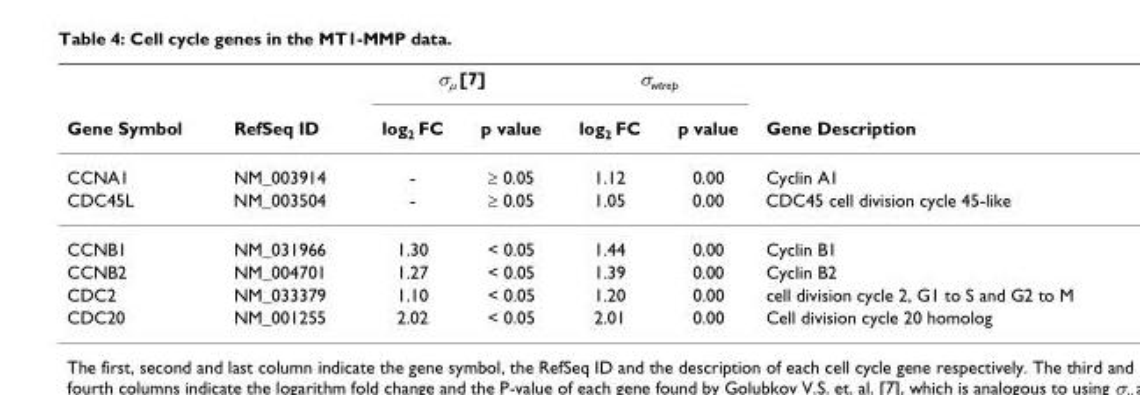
<table><thead><tr><td rowspan="2">Gene Symbol</td><td rowspan="2">RefSeq ID</td><td colspan="2">σ<sub>μ</sub> [7]</td><td colspan="2">σ<sub>wtrep</sub></td><td rowspan="2">Gene Description</td></tr><tr><td>log<sub>2</sub> FC</td><td>p value</td><td>log<sub>2</sub> FC</td><td>p value</td></tr></thead><tbody><tr><td>CCNA1</td><td>NM_003914</td><td>-</td><td>≥ 0.05</td><td>1.12</td><td>0.00</td><td>Cyclin A1</td></tr><tr><td>CDC45L</td><td>NM_003504</td><td>-</td><td>≥ 0.05</td><td>1.05</td><td>0.00</td><td>CDC45 cell division cycle 45-like</td></tr><tr><td>CCNB1</td><td>NM_031966</td><td>1.30</td><td>&lt; 0.05</td><td>1.44</td><td>0.00</td><td>Cyclin B1</td></tr><tr><td>CCNB2</td><td>NM_004701</td><td>1.27</td><td>&lt; 0.05</td><td>1.39</td><td>0.00</td><td>Cyclin B2</td></tr><tr><td>CDC2</td><td>NM_033379</td><td>1.10</td><td>&lt; 0.05</td><td>1.20</td><td>0.00</td><td>cell division cycle 2, G1 to S and G2 to M</td></tr><tr><td>CDC20</td><td>NM_001255</td><td>2.02</td><td>&lt; 0.05</td><td>2.01</td><td>0.00</td><td>Cell division cycle 20 homolog</td></tr></tbody></table>